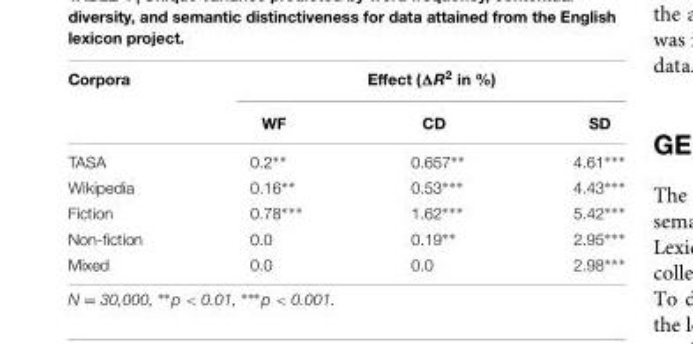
<table><thead><tr><td rowspan="2">Corpora</td><td colspan="3">Effect (ΔR<sup>2</sup> in %)</td></tr><tr><td>WF</td><td>CD</td><td>SD</td></tr></thead><tbody><tr><td>TASA</td><td>0.2∗∗</td><td>0.657∗∗</td><td>4.61∗∗∗</td></tr><tr><td>Wikipedia</td><td>0.16∗∗</td><td>0.53∗∗∗</td><td>4.43∗∗∗</td></tr><tr><td>Fiction</td><td>0.78∗∗∗</td><td>1.62∗∗∗</td><td>5.42∗∗∗</td></tr><tr><td>Non-fiction</td><td>0.0</td><td>0.19∗∗</td><td>2.95∗∗∗</td></tr><tr><td>Mixed</td><td>0.0</td><td>0.0</td><td>2.98∗∗∗</td></tr></tbody></table>